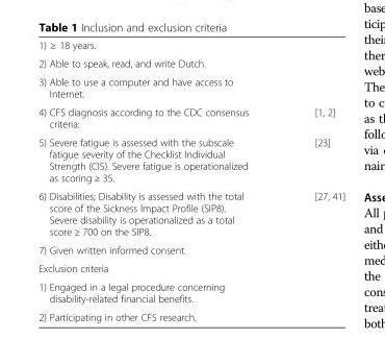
<table><tbody><tr><td colspan="2">1) ≥ 18 years.</td></tr><tr><td colspan="2">2) Able to speak, read, and write Dutch.</td></tr><tr><td colspan="2">3) Able to use a computer and have access to Internet.</td></tr><tr><td>4) CFS diagnosis according to the CDC consensus criteria:</td><td>[1, 2]</td></tr><tr><td>5) Severe fatigue is assessed with the subscale fatigue severity of the Checklist Individual Strength (CIS). Severe fatigue is operationalized as scoring ≥ 35.</td><td>[23]</td></tr><tr><td>6) Disabilities; Disability is assessed with the total score of the Sickness Impact Profile (SIP8). Severe disability is operationalized as a total score ≥ 700 on the SIP8.</td><td>[27, 41]</td></tr><tr><td colspan="2">7) Given written informed consent.</td></tr><tr><td colspan="2">Exclusion criteria</td></tr><tr><td colspan="2">1) Engaged in a legal procedure concerning disability-related financial benefits.</td></tr><tr><td>2) Participating in other CFS research.</td><td></td></tr></tbody></table>